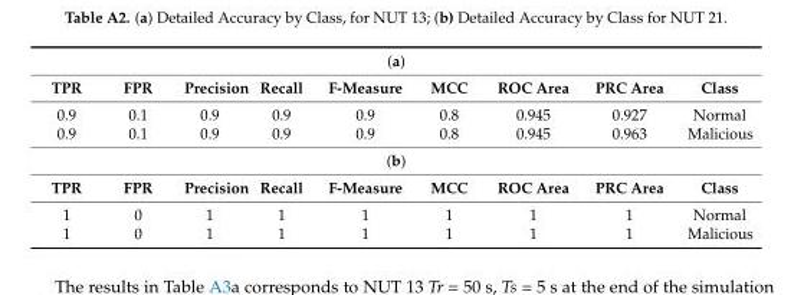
<table><tbody><tr><td colspan="9">(a)</td></tr><tr><td>TPR</td><td>FPR</td><td>Precision</td><td>Recall</td><td>F-Measure</td><td>MCC</td><td>ROC Area</td><td>PRC Area</td><td>Class</td></tr><tr><td>0.9</td><td>0.1</td><td>0.9</td><td>0.9</td><td>0.9</td><td>0.8</td><td>0.945</td><td>0.927</td><td>Normal</td></tr><tr><td>0.9</td><td>0.1</td><td>0.9</td><td>0.9</td><td>0.9</td><td>0.8</td><td>0.945</td><td>0.963</td><td>Malicious</td></tr><tr><td colspan="9">(b)</td></tr><tr><td>TPR</td><td>FPR</td><td>Precision</td><td>Recall</td><td>F-Measure</td><td>MCC</td><td>ROC Area</td><td>PRC Area</td><td>Class</td></tr><tr><td>1</td><td>0</td><td>1</td><td>1</td><td>1</td><td>1</td><td>1</td><td>1</td><td>Normal</td></tr><tr><td>1</td><td>0</td><td>1</td><td>1</td><td>1</td><td>1</td><td>1</td><td>1</td><td>Malicious</td></tr></tbody></table>